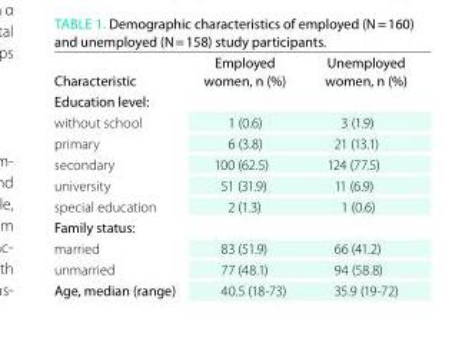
<table><thead><tr><td>characteristic</td><td>employed women, n (%)</td><td>unemployed women, n (%)</td></tr></thead><tbody><tr><td colspan="3">education level:</td></tr><tr><td>without school</td><td>1 (0.6)</td><td>3 (1.9)</td></tr><tr><td>primary</td><td>6 (3.8)</td><td>21 (13.1)</td></tr><tr><td>secondary</td><td>100 (62.5)</td><td>124 (77.5)</td></tr><tr><td>university</td><td>51 (31.9)</td><td>11 (6.9)</td></tr><tr><td>special education</td><td>2 (1.3)</td><td>1 (0.6)</td></tr><tr><td colspan="3">Family status:</td></tr><tr><td>married</td><td>83 (51.9)</td><td>66 (41.2)</td></tr><tr><td>unmarried</td><td>77 (48.1)</td><td>94 (58.8)</td></tr><tr><td>Age, median (range)</td><td>40.5 (18-73)</td><td>35.9 (19-72)</td></tr></tbody></table>